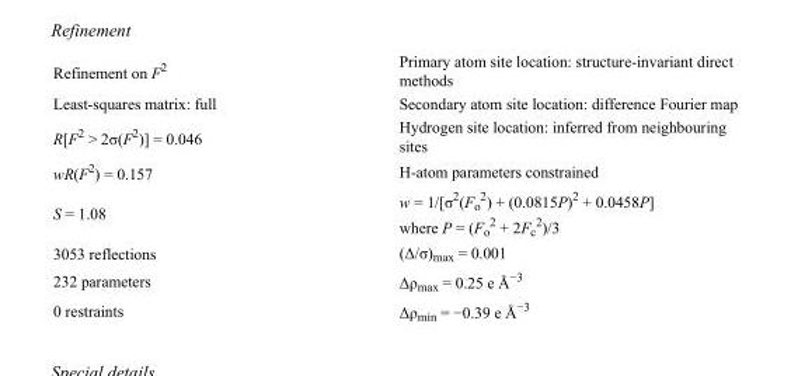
<table><tbody><tr><td>Refinement on F<sup>2</sup></td><td>Primary atom site location: structure-invariant direct methods</td></tr><tr><td>Least-squares matrix: full</td><td>Secondary atom site location: difference Fourier map</td></tr><tr><td>R[F<sup>2</sup> &gt; 2σ(F<sup>2</sup>)] = 0.046</td><td>Hydrogen site location: inferred from neighbouring sites</td></tr><tr><td>wR(F<sup>2</sup>) = 0.157</td><td>H-atom parameters constrained</td></tr><tr><td>S = 1.08</td><td>w = 1/[σ<sup>2</sup>(F<sub>o</sub> <sup>2</sup>) + (0.0815P)<sup>2</sup> + 0.0458P] where P = (F<sub>o</sub> <sup>2</sup> + 2F<sub>c</sub> <sup>2</sup>)/3</td></tr><tr><td>3053 reflections</td><td>(Δ/σ)<sub>max</sub> = 0.001</td></tr><tr><td>232 parameters</td><td>Δρ<sub>max</sub> = 0.25 e Å<sup>−3</sup></td></tr><tr><td>0 restraints</td><td>Δρ<sub>min</sub> = −0.39 e Å<sup>−3</sup></td></tr></tbody></table>